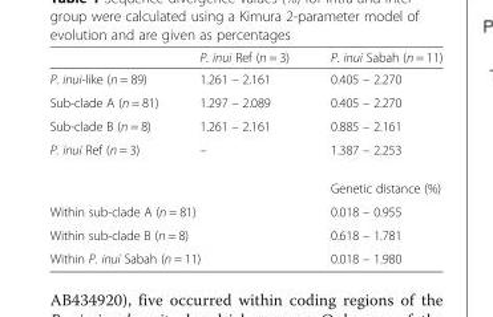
<table><thead><tr><td></td><td>P. inui Ref (n = 3)</td><td>P. inui Sabah (n = 11)</td></tr></thead><tbody><tr><td>P. inui-like (n = 89)</td><td>1.261 – 2.161</td><td>0.405 – 2.270</td></tr><tr><td>Sub-clade A (n = 81)</td><td>1.297 – 2.089</td><td>0.405 – 2.270</td></tr><tr><td>Sub-clade B (n = 8)</td><td>1.261 – 2.161</td><td>0.885 – 2.161</td></tr><tr><td>P. inui Ref (n = 3)</td><td>–</td><td>1.387 – 2.253</td></tr><tr><td colspan="2"></td><td>Genetic distance (%)</td></tr><tr><td colspan="2">Within sub-clade A (n = 81)</td><td>0.018 – 0.955</td></tr><tr><td colspan="2">Within sub-clade B (n = 8)</td><td>0.618 – 1.781</td></tr><tr><td colspan="2">Within P. inui Sabah (n = 11)</td><td>0.018 – 1.980</td></tr></tbody></table>